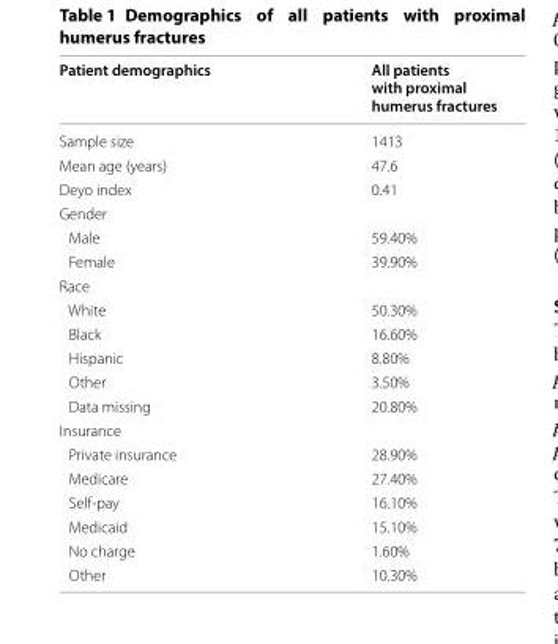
<table><thead><tr><td>Patient demographics</td><td>All patients with proximal humerus fractures</td></tr></thead><tbody><tr><td>Sample size</td><td>1413</td></tr><tr><td>Mean age (years)</td><td>47.6</td></tr><tr><td>Deyo index</td><td>0.41</td></tr><tr><td colspan="2">Gender</td></tr><tr><td>Male</td><td>59.40%</td></tr><tr><td>Female</td><td>39.90%</td></tr><tr><td colspan="2">Race</td></tr><tr><td>White</td><td>50.30%</td></tr><tr><td>Black</td><td>16.60%</td></tr><tr><td>Hispanic</td><td>8.80%</td></tr><tr><td>Other</td><td>3.50%</td></tr><tr><td>Data missing</td><td>20.80%</td></tr><tr><td colspan="2">Insurance</td></tr><tr><td>Private insurance</td><td>28.90%</td></tr><tr><td>Medicare</td><td>27.40%</td></tr><tr><td>Self-pay</td><td>16.10%</td></tr><tr><td>Medicaid</td><td>15.10%</td></tr><tr><td>No charge</td><td>1.60%</td></tr><tr><td>Other</td><td>10.30%</td></tr></tbody></table>